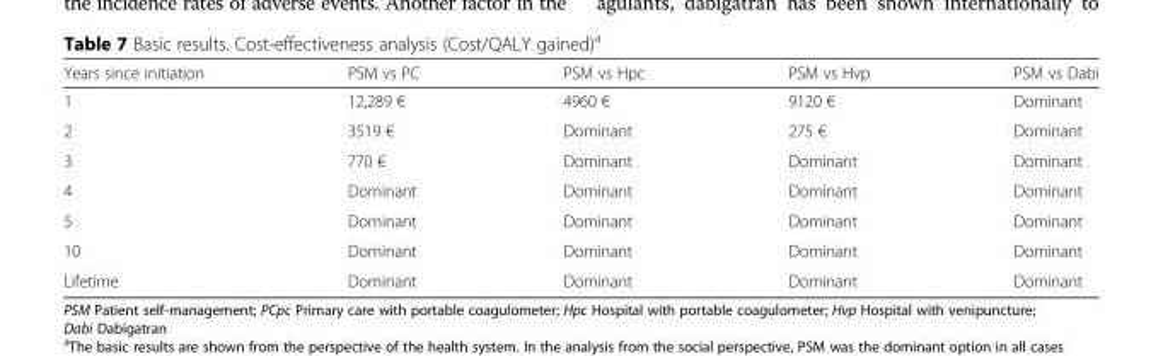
<table><thead><tr><td>Years since initiation</td><td>PSM vs PC</td><td>PSM vs Hpc</td><td>PSM vs Hvp</td><td>PSM vs Dabi</td></tr></thead><tbody><tr><td>1</td><td>12,289 €</td><td>4960 €</td><td>9120 €</td><td>Dominant</td></tr><tr><td>2</td><td>3519 €</td><td>Dominant</td><td>275 €</td><td>Dominant</td></tr><tr><td>3</td><td>770 €</td><td>Dominant</td><td>Dominant</td><td>Dominant</td></tr><tr><td>4</td><td>Dominant</td><td>Dominant</td><td>Dominant</td><td>Dominant</td></tr><tr><td>5</td><td>Dominant</td><td>Dominant</td><td>Dominant</td><td>Dominant</td></tr><tr><td>10</td><td>Dominant</td><td>Dominant</td><td>Dominant</td><td>Dominant</td></tr><tr><td>Lifetime</td><td>Dominant</td><td>Dominant</td><td>Dominant</td><td>Dominant</td></tr></tbody></table>